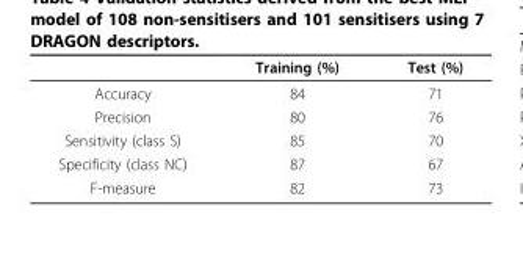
<table><thead><tr><td></td><td>Training (%)</td><td>Test (%)</td></tr></thead><tbody><tr><td>Accuracy</td><td>84</td><td>71</td></tr><tr><td>Precision</td><td>80</td><td>76</td></tr><tr><td>Sensitivity (class S)</td><td>85</td><td>70</td></tr><tr><td>Specificity (class NC)</td><td>87</td><td>67</td></tr><tr><td>F-measure</td><td>82</td><td>73</td></tr></tbody></table>